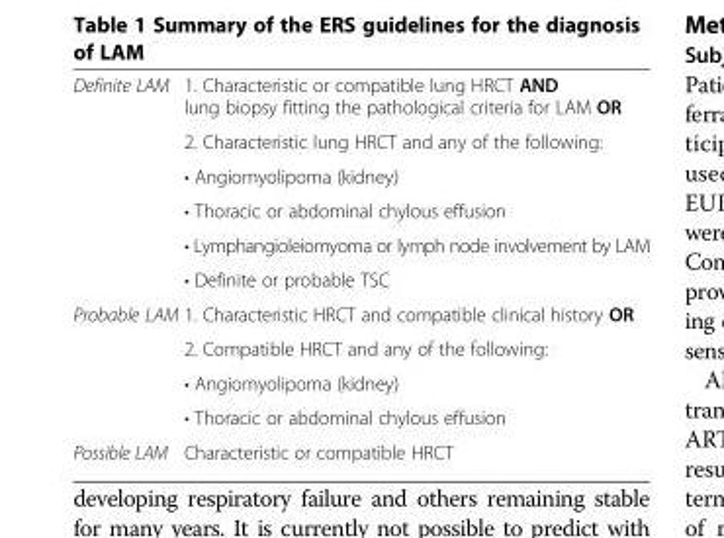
<table><tbody><tr><td rowspan="6">Definite LAM</td><td>1. Characteristic or compatible lung HRCT AND lung biopsy fitting the pathological criteria for LAM OR</td></tr><tr><td>2. Characteristic lung HRCT and any of the following:</td></tr><tr><td>• Angiomyolipoma (kidney)</td></tr><tr><td>• Thoracic or abdominal chylous effusion</td></tr><tr><td>• Lymphangioleiomyoma or lymph node involvement by LAM</td></tr><tr><td>• Definite or probable TSC</td></tr><tr><td rowspan="4">Probable LAM</td><td>1. Characteristic HRCT and compatible clinical history OR</td></tr><tr><td>2. Compatible HRCT and any of the following:</td></tr><tr><td>• Angiomyolipoma (kidney)</td></tr><tr><td>• Thoracic or abdominal chylous effusion</td></tr><tr><td>Possible LAM</td><td>Characteristic or compatible HRCT</td></tr></tbody></table>